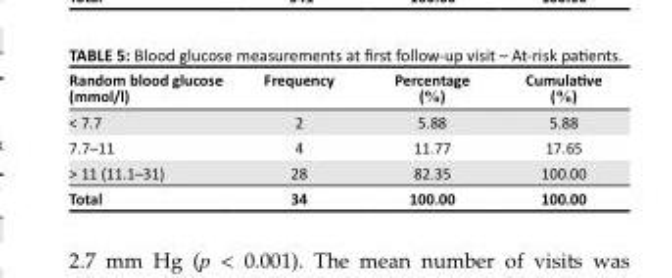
<table><thead><tr><td>Random blood glucose (mmol/l)</td><td>Frequency</td><td>Percentage (%)</td><td>Cumulative (%)</td></tr></thead><tbody><tr><td>&lt; 7.7</td><td>2</td><td>5.88</td><td>5.88</td></tr><tr><td>7.7–11</td><td>4</td><td>11.77</td><td>17.65</td></tr><tr><td>&gt; 11 (11.1–31)</td><td>28</td><td>82.35</td><td>100.00</td></tr><tr><td>Total</td><td>34</td><td>100.00</td><td>100.00</td></tr></tbody></table>